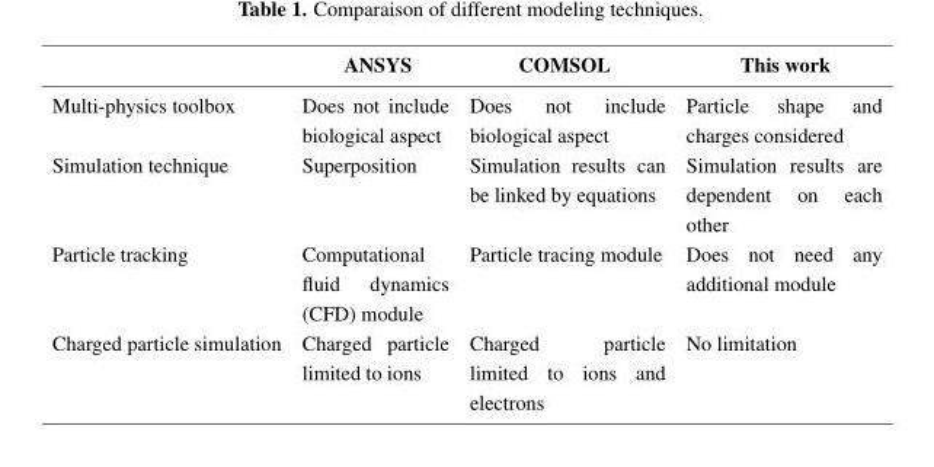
<table><thead><tr><td></td><td>ANSYS</td><td>COMSOL</td><td>This work</td></tr></thead><tbody><tr><td>Multi-physics toolbox</td><td>Does not include biological aspect</td><td>Does not include biological aspect</td><td>Particle shape and charges considered</td></tr><tr><td>Simulation technique</td><td>Superposition</td><td>Simulation results can be linked by equations</td><td>Simulation results are dependent on each other</td></tr><tr><td>Particle tracking</td><td>Computational fluid dynamics (CFD) module</td><td>Particle tracing module</td><td>Does not need any additional module</td></tr><tr><td>Charged particle simulation</td><td>Charged particle limited to ions</td><td>Charged particle limited to ions and electrons</td><td>No limitation</td></tr></tbody></table>